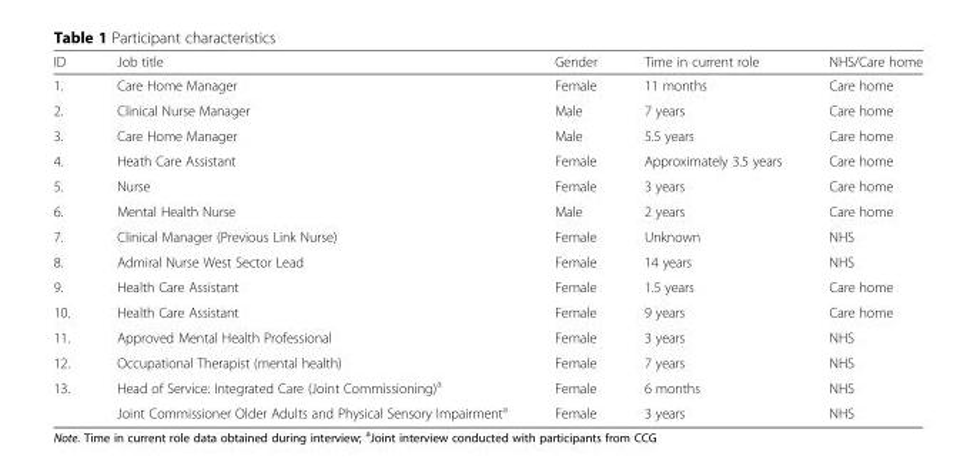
<table><thead><tr><td>ID</td><td>Job title</td><td>Gender</td><td>Time in current role</td><td>NHS/Care home</td></tr></thead><tbody><tr><td>1.</td><td>Care Home Manager</td><td>Female</td><td>11 months</td><td>Care home</td></tr><tr><td>2.</td><td>Clinical Nurse Manager</td><td>Male</td><td>7 years</td><td>Care home</td></tr><tr><td>3.</td><td>Care Home Manager</td><td>Male</td><td>5.5 years</td><td>Care home</td></tr><tr><td>4.</td><td>Heath Care Assistant</td><td>Female</td><td>Approximately 3.5 years</td><td>Care home</td></tr><tr><td>5.</td><td>Nurse</td><td>Female</td><td>3 years</td><td>Care home</td></tr><tr><td>6.</td><td>Mental Health Nurse</td><td>Male</td><td>2 years</td><td>Care home</td></tr><tr><td>7.</td><td>Clinical Manager (Previous Link Nurse)</td><td>Female</td><td>Unknown</td><td>NHS</td></tr><tr><td>8.</td><td>Admiral Nurse West Sector Lead</td><td>Female</td><td>14 years</td><td>NHS</td></tr><tr><td>9.</td><td>Health Care Assistant</td><td>Female</td><td>1.5 years</td><td>Care home</td></tr><tr><td>10.</td><td>Health Care Assistant</td><td>Female</td><td>9 years</td><td>Care home</td></tr><tr><td>11.</td><td>Approved Mental Health Professional</td><td>Female</td><td>3 years</td><td>NHS</td></tr><tr><td>12.</td><td>Occupational Therapist (mental health)</td><td>Female</td><td>7 years</td><td>NHS</td></tr><tr><td rowspan="2">13.</td><td>Head of Service: Integrated Care (Joint Commissioning)<sup>a</sup></td><td>Female</td><td>6 months</td><td>NHS</td></tr><tr><td>Joint Commissioner Older Adults and Physical Sensory Impairment<sup>a</sup></td><td>Female</td><td>3 years</td><td>NHS</td></tr></tbody></table>